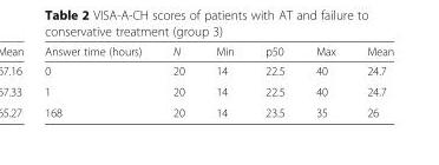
<table><thead><tr><td>Answer time (hours)</td><td>N</td><td>Min</td><td>p50</td><td>Max</td><td>Mean</td></tr></thead><tbody><tr><td>0</td><td>20</td><td>14</td><td>22.5</td><td>40</td><td>24.7</td></tr><tr><td>1</td><td>20</td><td>14</td><td>22.5</td><td>40</td><td>24.7</td></tr><tr><td>168</td><td>20</td><td>14</td><td>23.5</td><td>35</td><td>26</td></tr></tbody></table>